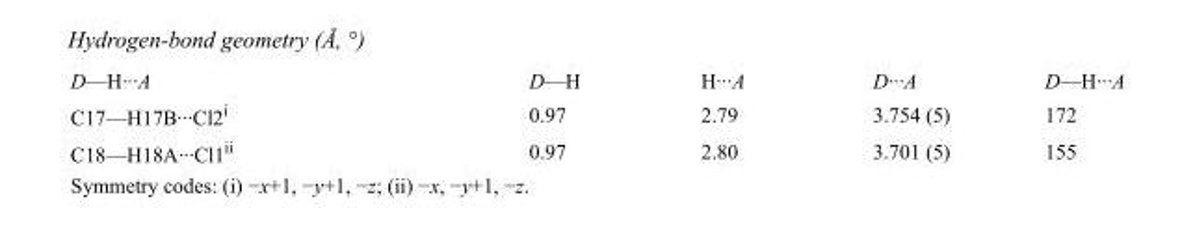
<table><tbody><tr><td>D—H···A</td><td>D—H</td><td>H···A</td><td>D···A</td><td>D—H···A</td></tr><tr><td>C17—H17B···Cl2<sup>i</sup></td><td>0.97</td><td>2.79</td><td>3.754 (5)</td><td>172</td></tr><tr><td>C18—H18A···Cl1<sup>ii</sup></td><td>0.97</td><td>2.80</td><td>3.701 (5)</td><td>155</td></tr></tbody></table>